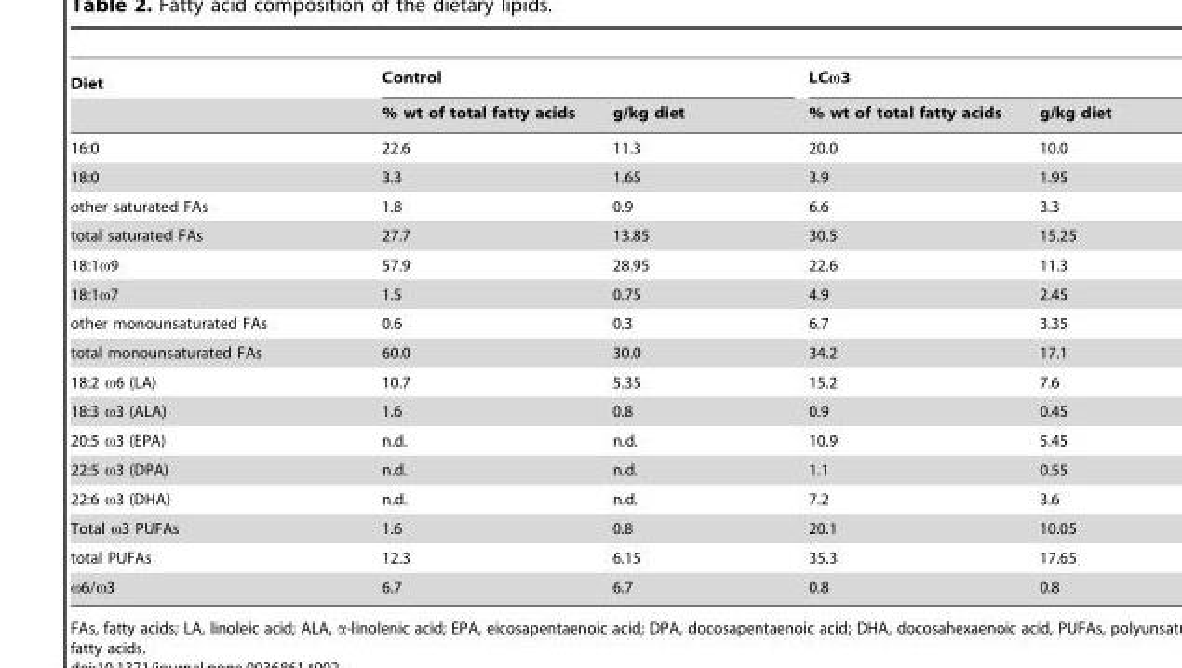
<table><thead><tr><td rowspan="2">Diet</td><td colspan="2">Control</td><td colspan="2">LCω3</td></tr><tr><td>% wt of total fatty acids</td><td>g/kg diet</td><td>% wt of total fatty acids</td><td>g/kg diet</td></tr></thead><tbody><tr><td>16:0</td><td>22.6</td><td>11.3</td><td>20.0</td><td>10.0</td></tr><tr><td>18:0</td><td>3.3</td><td>1.65</td><td>3.9</td><td>1.95</td></tr><tr><td>other saturated FAs</td><td>1.8</td><td>0.9</td><td>6.6</td><td>3.3</td></tr><tr><td>total saturated FAs</td><td>27.7</td><td>13.85</td><td>30.5</td><td>15.25</td></tr><tr><td>18:1ω9</td><td>57.9</td><td>28.95</td><td>22.6</td><td>11.3</td></tr><tr><td>18:1ω7</td><td>1.5</td><td>0.75</td><td>4.9</td><td>2.45</td></tr><tr><td>other monounsaturated FAs</td><td>0.6</td><td>0.3</td><td>6.7</td><td>3.35</td></tr><tr><td>total monounsaturated FAs</td><td>60.0</td><td>30.0</td><td>34.2</td><td>17.1</td></tr><tr><td>18:2 ω6 (LA)</td><td>10.7</td><td>5.35</td><td>15.2</td><td>7.6</td></tr><tr><td>18:3 ω3 (ALA)</td><td>1.6</td><td>0.8</td><td>0.9</td><td>0.45</td></tr><tr><td>20:5 ω3 (EPA)</td><td>n.d.</td><td>n.d.</td><td>10.9</td><td>5.45</td></tr><tr><td>22:5 ω3 (DPA)</td><td>n.d.</td><td>n.d.</td><td>1.1</td><td>0.55</td></tr><tr><td>22:6 ω3 (DHA)</td><td>n.d.</td><td>n.d.</td><td>7.2</td><td>3.6</td></tr><tr><td>Total ω3 PUFAs</td><td>1.6</td><td>0.8</td><td>20.1</td><td>10.05</td></tr><tr><td>total PUFAs</td><td>12.3</td><td>6.15</td><td>35.3</td><td>17.65</td></tr><tr><td>ω6/ω3</td><td>6.7</td><td>6.7</td><td>0.8</td><td>0.8</td></tr></tbody></table>